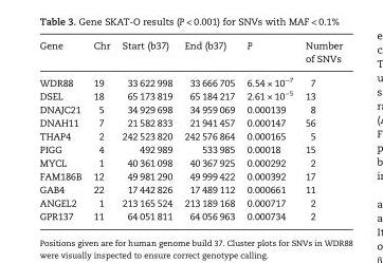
<table><thead><tr><td>Gene</td><td>Chr</td><td>Start (b37)</td><td>End (b37)</td><td>P</td><td>Number of SNVs</td></tr></thead><tbody><tr><td>WDR88</td><td>19</td><td>33 622 998</td><td>33 666 705</td><td>6.54 × 10<sup>−7</sup></td><td>7</td></tr><tr><td>DSEL</td><td>18</td><td>65 173 819</td><td>65 184 217</td><td>2.61 × 10<sup>−5</sup></td><td>13</td></tr><tr><td>DNAJC21</td><td>5</td><td>34 929 698</td><td>34 959 069</td><td>0.000139</td><td>8</td></tr><tr><td>DNAH11</td><td>7</td><td>21 582 833</td><td>21 941 457</td><td>0.000147</td><td>56</td></tr><tr><td>THAP4</td><td>2</td><td>242 523 820</td><td>242 576 864</td><td>0.000165</td><td>5</td></tr><tr><td>PIGG</td><td>4</td><td>492 989</td><td>533 985</td><td>0.00018</td><td>15</td></tr><tr><td>MYCL</td><td>1</td><td>40 361 098</td><td>40 367 925</td><td>0.000292</td><td>2</td></tr><tr><td>FAM186B</td><td>12</td><td>49 981 290</td><td>49 999 422</td><td>0.000392</td><td>17</td></tr><tr><td>GAB4</td><td>22</td><td>17 442 826</td><td>17 489 112</td><td>0.000661</td><td>11</td></tr><tr><td>ANGEL2</td><td>1</td><td>213 165 524</td><td>213 189 168</td><td>0.000717</td><td>2</td></tr><tr><td>GPR137</td><td>11</td><td>64 051 811</td><td>64 056 963</td><td>0.000734</td><td>2</td></tr></tbody></table>